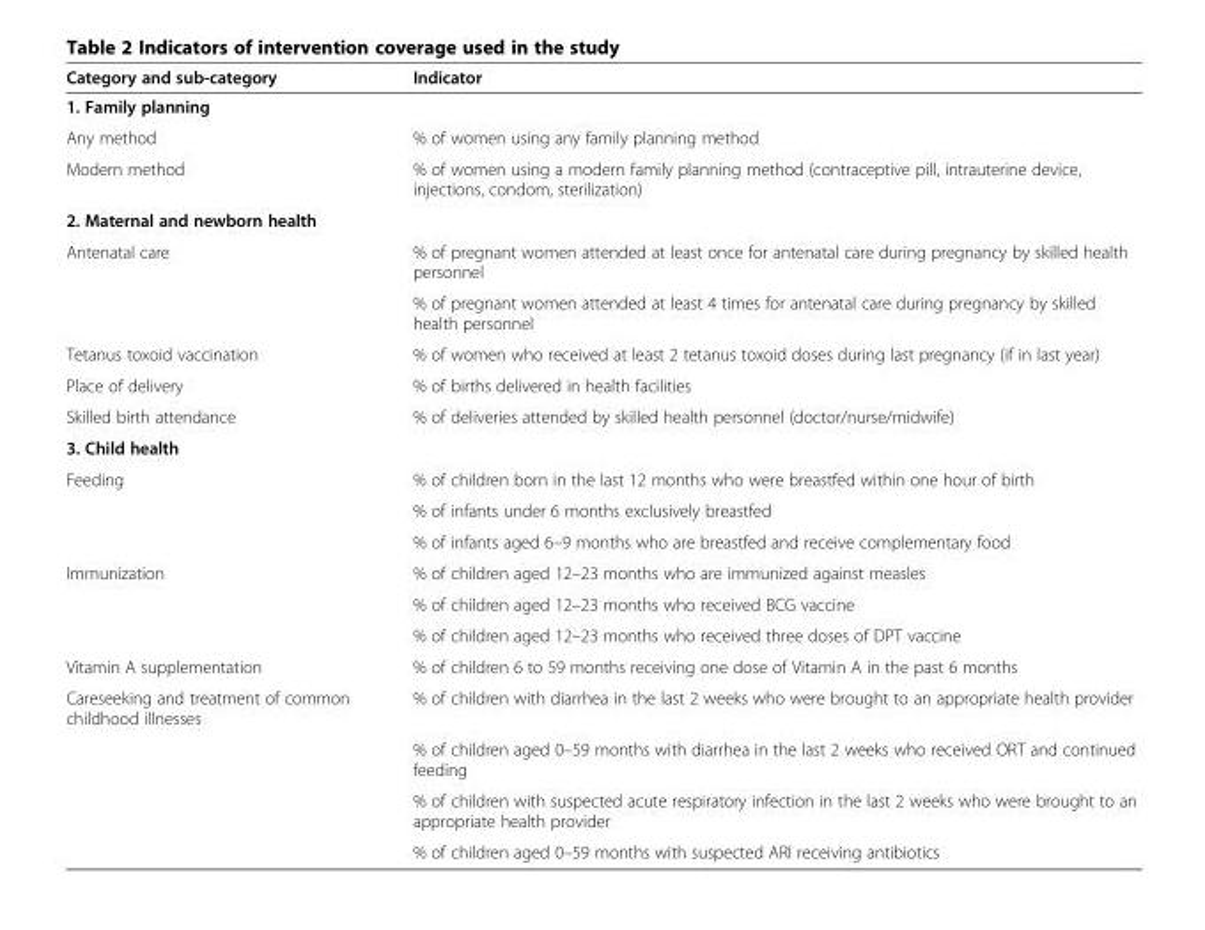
<table><thead><tr><td>Category and sub-category</td><td>Indicator</td></tr></thead><tbody><tr><td colspan="2">1. Family planning</td></tr><tr><td>Any method</td><td>% of women using any family planning method</td></tr><tr><td>Modern method</td><td>% of women using a modern family planning method (contraceptive pill, intrauterine device, injections, condom, sterilization)</td></tr><tr><td colspan="2">2. Maternal and newborn health</td></tr><tr><td rowspan="2">Antenatal care</td><td>% of pregnant women attended at least once for antenatal care during pregnancy by skilled health personnel</td></tr><tr><td>% of pregnant women attended at least 4 times for antenatal care during pregnancy by skilled health personnel</td></tr><tr><td>Tetanus toxoid vaccination</td><td>% of women who received at least 2 tetanus toxoid doses during last pregnancy (if in last year)</td></tr><tr><td>Place of delivery</td><td>% of births delivered in health facilities</td></tr><tr><td>Skilled birth attendance</td><td>% of deliveries attended by skilled health personnel (doctor/nurse/midwife)</td></tr><tr><td colspan="2">3. Child health</td></tr><tr><td rowspan="3">Feeding</td><td>% of children born in the last 12 months who were breastfed within one hour of birth</td></tr><tr><td>% of infants under 6 months exclusively breastfed</td></tr><tr><td>% of infants aged 6–9 months who are breastfed and receive complementary food</td></tr><tr><td rowspan="3">Immunization</td><td>% of children aged 12–23 months who are immunized against measles</td></tr><tr><td>% of children aged 12–23 months who received BCG vaccine</td></tr><tr><td>% of children aged 12–23 months who received three doses of DPT vaccine</td></tr><tr><td>Vitamin A supplementation</td><td>% of children 6 to 59 months receiving one dose of Vitamin A in the past 6 months</td></tr><tr><td rowspan="4">Careseeking and treatment of common childhood illnesses</td><td>% of children with diarrhea in the last 2 weeks who were brought to an appropriate health provider</td></tr><tr><td>% of children aged 0–59 months with diarrhea in the last 2 weeks who received ORT and continued feeding</td></tr><tr><td>% of children with suspected acute respiratory infection in the last 2 weeks who were brought to an appropriate health provider</td></tr><tr><td>% of children aged 0–59 months with suspected ARI receiving antibiotics</td></tr></tbody></table>